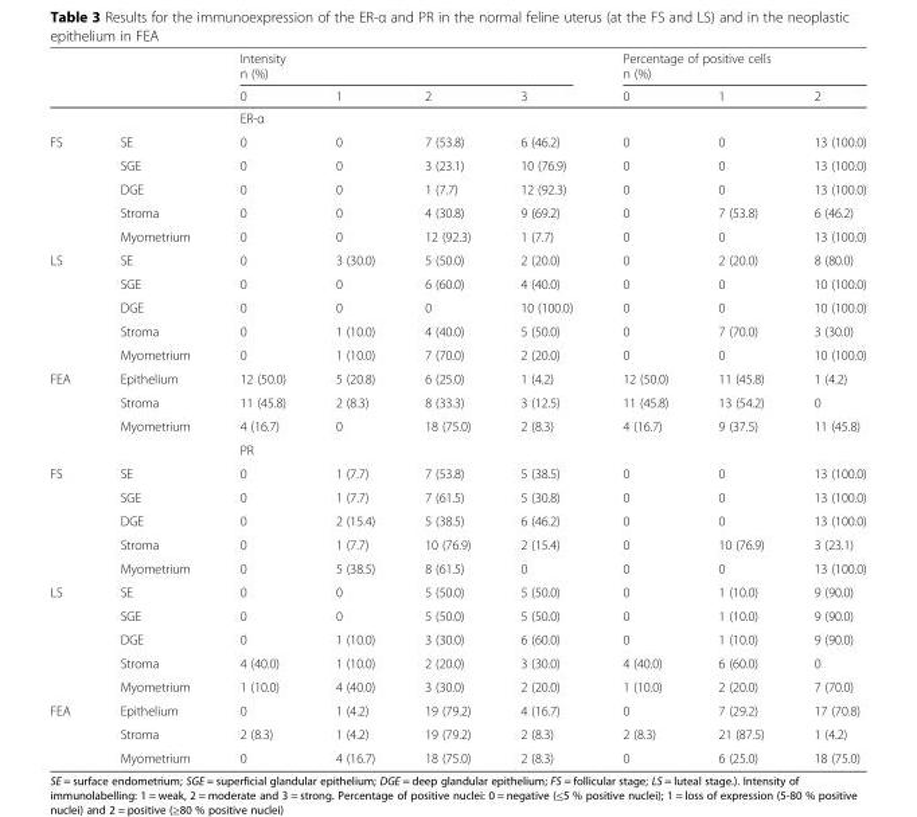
<table><thead><tr><td rowspan="3"></td><td rowspan="3"></td><td rowspan="2" colspan="4">Intensity n (%)</td><td rowspan="2" colspan="3">Percentage of positive cells n (%)</td></tr><tr></tr><tr><td>0</td><td>1</td><td>2</td><td>3</td><td>0</td><td>1</td><td>2</td></tr></thead><tbody><tr><td colspan="2"></td><td colspan="7">ER-α</td></tr><tr><td rowspan="5">FS</td><td>SE</td><td>0</td><td>0</td><td>7 (53.8)</td><td>6 (46.2)</td><td>0</td><td>0</td><td>13 (100.0)</td></tr><tr><td>SGE</td><td>0</td><td>0</td><td>3 (23.1)</td><td>10 (76.9)</td><td>0</td><td>0</td><td>13 (100.0)</td></tr><tr><td>DGE</td><td>0</td><td>0</td><td>1 (7.7)</td><td>12 (92.3)</td><td>0</td><td>0</td><td>13 (100.0)</td></tr><tr><td>Stroma</td><td>0</td><td>0</td><td>4 (30.8)</td><td>9 (69.2)</td><td>0</td><td>7 (53.8)</td><td>6 (46.2)</td></tr><tr><td>Myometrium</td><td>0</td><td>0</td><td>12 (92.3)</td><td>1 (7.7)</td><td>0</td><td>0</td><td>13 (100.0)</td></tr><tr><td rowspan="5">LS</td><td>SE</td><td>0</td><td>3 (30.0)</td><td>5 (50.0)</td><td>2 (20.0)</td><td>0</td><td>2 (20.0)</td><td>8 (80.0)</td></tr><tr><td>SGE</td><td>0</td><td>0</td><td>6 (60.0)</td><td>4 (40.0)</td><td>0</td><td>0</td><td>10 (100.0)</td></tr><tr><td>DGE</td><td>0</td><td>0</td><td>0</td><td>10 (100.0)</td><td>0</td><td>0</td><td>10 (100.0)</td></tr><tr><td>Stroma</td><td>0</td><td>1 (10.0)</td><td>4 (40.0)</td><td>5 (50.0)</td><td>0</td><td>7 (70.0)</td><td>3 (30.0)</td></tr><tr><td>Myometrium</td><td>0</td><td>1 (10.0)</td><td>7 (70.0)</td><td>2 (20.0)</td><td>0</td><td>0</td><td>10 (100.0)</td></tr><tr><td rowspan="3">FEA</td><td>Epithelium</td><td>12 (50.0)</td><td>5 (20.8)</td><td>6 (25.0)</td><td>1 (4.2)</td><td>12 (50.0)</td><td>11 (45.8)</td><td>1 (4.2)</td></tr><tr><td>Stroma</td><td>11 (45.8)</td><td>2 (8.3)</td><td>8 (33.3)</td><td>3 (12.5)</td><td>11 (45.8)</td><td>13 (54.2)</td><td>0</td></tr><tr><td>Myometrium</td><td>4 (16.7)</td><td>0</td><td>18 (75.0)</td><td>2 (8.3)</td><td>4 (16.7)</td><td>9 (37.5)</td><td>11 (45.8)</td></tr><tr><td colspan="2"></td><td colspan="7">PR</td></tr><tr><td rowspan="5">FS</td><td>SE</td><td>0</td><td>1 (7.7)</td><td>7 (53.8)</td><td>5 (38.5)</td><td>0</td><td>0</td><td>13 (100.0)</td></tr><tr><td>SGE</td><td>0</td><td>1 (7.7)</td><td>7 (61.5)</td><td>5 (30.8)</td><td>0</td><td>0</td><td>13 (100.0)</td></tr><tr><td>DGE</td><td>0</td><td>2 (15.4)</td><td>5 (38.5)</td><td>6 (46.2)</td><td>0</td><td>0</td><td>13 (100.0)</td></tr><tr><td>Stroma</td><td>0</td><td>1 (7.7)</td><td>10 (76.9)</td><td>2 (15.4)</td><td>0</td><td>10 (76.9)</td><td>3 (23.1)</td></tr><tr><td>Myometrium</td><td>0</td><td>5 (38.5)</td><td>8 (61.5)</td><td>0</td><td>0</td><td>0</td><td>13 (100.0)</td></tr><tr><td rowspan="5">LS</td><td>SE</td><td>0</td><td>0</td><td>5 (50.0)</td><td>5 (50.0)</td><td>0</td><td>1 (10.0)</td><td>9 (90.0)</td></tr><tr><td>SGE</td><td>0</td><td>0</td><td>5 (50.0)</td><td>5 (50.0)</td><td>0</td><td>1 (10.0)</td><td>9 (90.0)</td></tr><tr><td>DGE</td><td>0</td><td>1 (10.0)</td><td>3 (30.0)</td><td>6 (60.0)</td><td>0</td><td>1 (10.0)</td><td>9 (90.0)</td></tr><tr><td>Stroma</td><td>4 (40.0)</td><td>1 (10.0)</td><td>2 (20.0)</td><td>3 (30.0)</td><td>4 (40.0)</td><td>6 (60.0)</td><td>0</td></tr><tr><td>Myometrium</td><td>1 (10.0)</td><td>4 (40.0)</td><td>3 (30.0)</td><td>2 (20.0)</td><td>1 (10.0)</td><td>2 (20.0)</td><td>7 (70.0)</td></tr><tr><td rowspan="3">FEA</td><td>Epithelium</td><td>0</td><td>1 (4.2)</td><td>19 (79.2)</td><td>4 (16.7)</td><td>0</td><td>7 (29.2)</td><td>17 (70.8)</td></tr><tr><td>Stroma</td><td>2 (8.3)</td><td>1 (4.2)</td><td>19 (79.2)</td><td>2 (8.3)</td><td>2 (8.3)</td><td>21 (87.5)</td><td>1 (4.2)</td></tr><tr><td>Myometrium</td><td>0</td><td>4 (16.7)</td><td>18 (75.0)</td><td>2 (8.3)</td><td>0</td><td>6 (25.0)</td><td>18 (75.0)</td></tr></tbody></table>